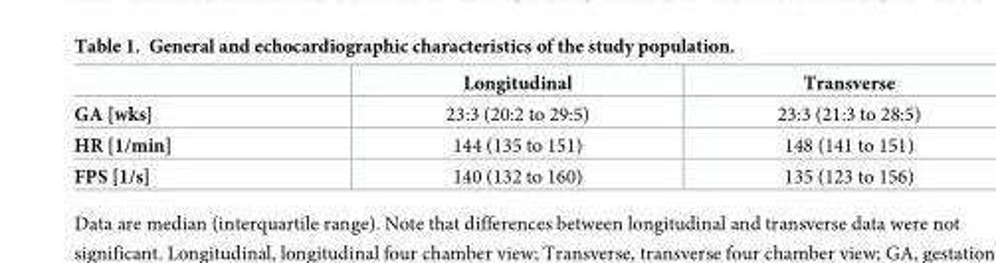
<table><thead><tr><td></td><td>Longitudinal</td><td>Transverse</td></tr></thead><tbody><tr><td>GA [wks]</td><td>23:3 (20:2 to 29:5)</td><td>23:3 (21:3 to 28:5)</td></tr><tr><td>HR [1/min]</td><td>144 (135 to 151)</td><td>148 (141 to 151)</td></tr><tr><td>FPS [1/s]</td><td>140 (132 to 160)</td><td>135 (123 to 156)</td></tr></tbody></table>